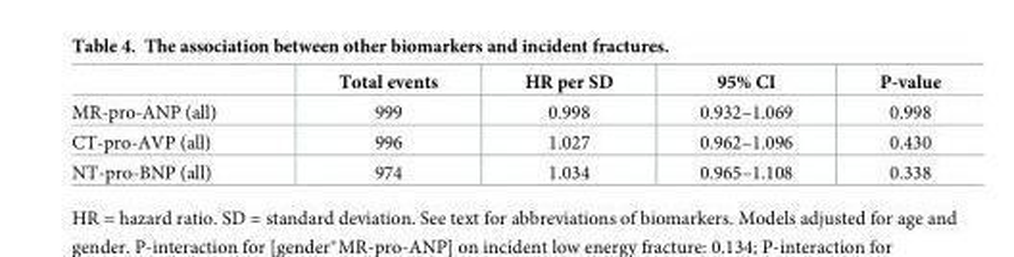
<table><thead><tr><td></td><td>Total events</td><td>HR per SD</td><td>95% CI</td><td>P-value</td></tr></thead><tbody><tr><td>MR-pro-ANP (all)</td><td>999</td><td>0.998</td><td>0.932–1.069</td><td>0.998</td></tr><tr><td>CT-pro-AVP (all)</td><td>996</td><td>1.027</td><td>0.962–1.096</td><td>0.430</td></tr><tr><td>NT-pro-BNP (all)</td><td>974</td><td>1.034</td><td>0.965–1.108</td><td>0.338</td></tr></tbody></table>